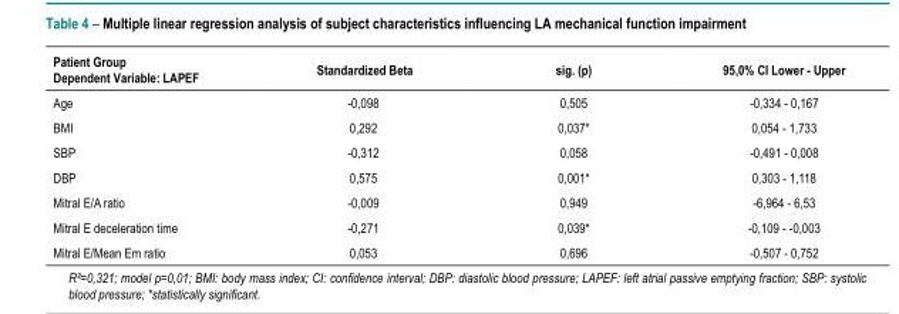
<table><thead><tr><td>Patient Group Dependent Variable: LAPEF</td><td>Standardized Beta</td><td>sig. (p)</td><td>95,0% CI Lower - Upper</td></tr></thead><tbody><tr><td>Age</td><td>-0,098</td><td>0,505</td><td>-0,334 - 0,167</td></tr><tr><td>BMI</td><td>0,292</td><td>0,037*</td><td>0,054 - 1,733</td></tr><tr><td>SBP</td><td>-0,312</td><td>0,058</td><td>-0,491 - 0,008</td></tr><tr><td>DBP</td><td>0,575</td><td>0,001*</td><td>0,303 - 1,118</td></tr><tr><td>Mitral E/A ratio</td><td>-0,009</td><td>0,949</td><td>-6,964 - 6,53</td></tr><tr><td>Mitral E deceleration time</td><td>-0,271</td><td>0,039*</td><td>-0,109 - -0,003</td></tr><tr><td>Mitral E/Mean Em ratio</td><td>0,053</td><td>0,696</td><td>-0,507 - 0,752</td></tr></tbody></table>